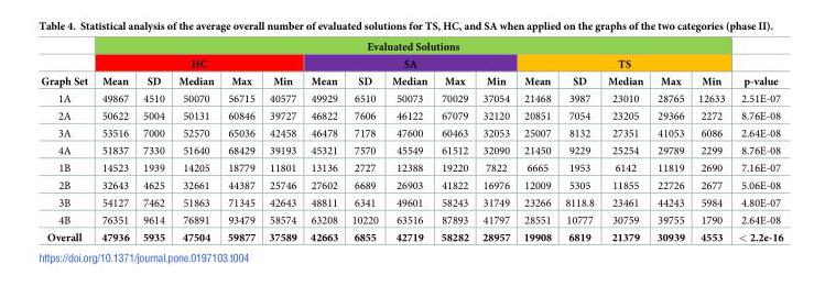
<table><thead><tr><td rowspan="3">Graph Set</td><td colspan="15">Evaluated Solutions</td><td rowspan="3">p-value</td></tr><tr><td colspan="5">HC</td><td colspan="5">SA</td><td colspan="5">TS</td></tr><tr><td>Mean</td><td>SD</td><td>Median</td><td>Max</td><td>Min</td><td>Mean</td><td>SD</td><td>Median</td><td>Max</td><td>Min</td><td>Mean</td><td>SD</td><td>Median</td><td>Max</td><td>Min</td></tr></thead><tbody><tr><td>1A</td><td>49867</td><td>4510</td><td>50070</td><td>56715</td><td>40577</td><td>49929</td><td>6510</td><td>50073</td><td>70029</td><td>37054</td><td>21468</td><td>3987</td><td>23010</td><td>28765</td><td>12633</td><td>2.51E-07</td></tr><tr><td>2A</td><td>50622</td><td>5004</td><td>50131</td><td>60846</td><td>39727</td><td>46822</td><td>7606</td><td>46122</td><td>67079</td><td>32120</td><td>20851</td><td>7054</td><td>23205</td><td>29366</td><td>2272</td><td>8.76E-08</td></tr><tr><td>3A</td><td>53516</td><td>7000</td><td>52570</td><td>65036</td><td>42458</td><td>46478</td><td>7178</td><td>47600</td><td>60463</td><td>32053</td><td>25007</td><td>8132</td><td>27351</td><td>41053</td><td>6086</td><td>2.64E-08</td></tr><tr><td>4A</td><td>51837</td><td>7330</td><td>51640</td><td>68429</td><td>39193</td><td>45321</td><td>7570</td><td>45549</td><td>61512</td><td>32090</td><td>21450</td><td>9229</td><td>25254</td><td>29789</td><td>2299</td><td>8.76E-08</td></tr><tr><td>1B</td><td>14523</td><td>1939</td><td>14205</td><td>18779</td><td>11801</td><td>13136</td><td>2727</td><td>12388</td><td>19220</td><td>7822</td><td>6665</td><td>1953</td><td>6142</td><td>11819</td><td>2690</td><td>7.16E-07</td></tr><tr><td>2B</td><td>32643</td><td>4625</td><td>32661</td><td>44387</td><td>25746</td><td>27602</td><td>6689</td><td>26903</td><td>41822</td><td>16976</td><td>12009</td><td>5305</td><td>11855</td><td>22726</td><td>2677</td><td>5.06E-08</td></tr><tr><td>3B</td><td>54127</td><td>7462</td><td>51863</td><td>71345</td><td>42643</td><td>48811</td><td>6341</td><td>49601</td><td>58243</td><td>31749</td><td>23266</td><td>8118.8</td><td>23461</td><td>44243</td><td>5984</td><td>4.80E-07</td></tr><tr><td>4B</td><td>76351</td><td>9614</td><td>76891</td><td>93479</td><td>58574</td><td>63208</td><td>10220</td><td>63516</td><td>87893</td><td>41797</td><td>28551</td><td>10777</td><td>30759</td><td>39755</td><td>1790</td><td>2.64E-08</td></tr><tr><td>Overall</td><td>47936</td><td>5935</td><td>47504</td><td>59877</td><td>37589</td><td>42663</td><td>6855</td><td>42719</td><td>58282</td><td>28957</td><td>19908</td><td>6819</td><td>21379</td><td>30939</td><td>4553</td><td>&lt; 2.2e-16</td></tr></tbody></table>